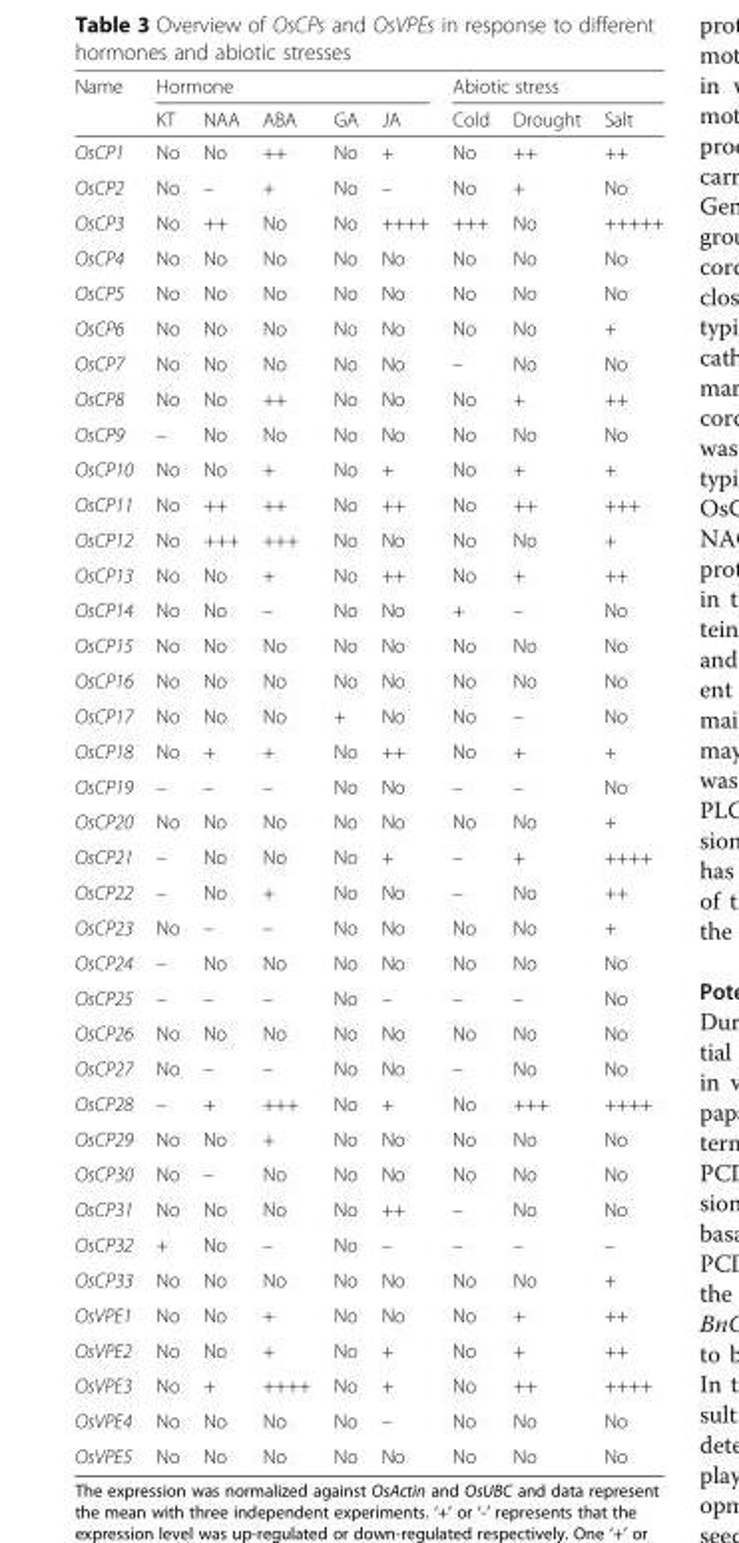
<table><thead><tr><td rowspan="2">Name</td><td colspan="5">Hormone</td><td colspan="3">Abiotic stress</td></tr><tr><td>KT</td><td>NAA</td><td>ABA</td><td>GA</td><td>JA</td><td>Cold</td><td>Drought</td><td>Salt</td></tr></thead><tbody><tr><td>OsCP1</td><td>No</td><td>No</td><td>++</td><td>No</td><td>+</td><td>No</td><td>++</td><td>++</td></tr><tr><td>OsCP2</td><td>No</td><td>–</td><td>+</td><td>No</td><td>–</td><td>No</td><td>+</td><td>No</td></tr><tr><td>OsCP3</td><td>No</td><td>++</td><td>No</td><td>No</td><td>++++</td><td>+++</td><td>No</td><td>+++++</td></tr><tr><td>OsCP4</td><td>No</td><td>No</td><td>No</td><td>No</td><td>No</td><td>No</td><td>No</td><td>No</td></tr><tr><td>OsCP5</td><td>No</td><td>No</td><td>No</td><td>No</td><td>No</td><td>No</td><td>No</td><td>No</td></tr><tr><td>OsCP6</td><td>No</td><td>No</td><td>No</td><td>No</td><td>No</td><td>No</td><td>No</td><td>+</td></tr><tr><td>OsCP7</td><td>No</td><td>No</td><td>No</td><td>No</td><td>No</td><td>–</td><td>No</td><td>No</td></tr><tr><td>OsCP8</td><td>No</td><td>No</td><td>++</td><td>No</td><td>No</td><td>No</td><td>+</td><td>++</td></tr><tr><td>OsCP9</td><td>–</td><td>No</td><td>No</td><td>No</td><td>No</td><td>No</td><td>No</td><td>No</td></tr><tr><td>OsCP10</td><td>No</td><td>No</td><td>+</td><td>No</td><td>+</td><td>No</td><td>+</td><td>+</td></tr><tr><td>OsCP11</td><td>No</td><td>++</td><td>++</td><td>No</td><td>++</td><td>No</td><td>++</td><td>+++</td></tr><tr><td>OsCP12</td><td>No</td><td>+++</td><td>+++</td><td>No</td><td>No</td><td>No</td><td>No</td><td>+</td></tr><tr><td>OsCP13</td><td>No</td><td>No</td><td>+</td><td>No</td><td>++</td><td>No</td><td>+</td><td>++</td></tr><tr><td>OsCP14</td><td>No</td><td>No</td><td>–</td><td>No</td><td>No</td><td>+</td><td>–</td><td>No</td></tr><tr><td>OsCP15</td><td>No</td><td>No</td><td>No</td><td>No</td><td>No</td><td>No</td><td>No</td><td>No</td></tr><tr><td>OsCP16</td><td>No</td><td>No</td><td>No</td><td>No</td><td>No</td><td>No</td><td>No</td><td>No</td></tr><tr><td>OsCP17</td><td>No</td><td>No</td><td>No</td><td>+</td><td>No</td><td>No</td><td>–</td><td>No</td></tr><tr><td>OsCP18</td><td>No</td><td>+</td><td>+</td><td>No</td><td>++</td><td>No</td><td>+</td><td>+</td></tr><tr><td>OsCP19</td><td>–</td><td>–</td><td>–</td><td>No</td><td>No</td><td>–</td><td>–</td><td>No</td></tr><tr><td>OsCP20</td><td>No</td><td>No</td><td>No</td><td>No</td><td>No</td><td>No</td><td>No</td><td>+</td></tr><tr><td>OsCP21</td><td>–</td><td>No</td><td>No</td><td>No</td><td>+</td><td>–</td><td>+</td><td>++++</td></tr><tr><td>OsCP22</td><td>–</td><td>No</td><td>+</td><td>No</td><td>No</td><td>–</td><td>No</td><td>++</td></tr><tr><td>OsCP23</td><td>No</td><td>–</td><td>–</td><td>No</td><td>No</td><td>No</td><td>No</td><td>+</td></tr><tr><td>OsCP24</td><td>–</td><td>No</td><td>No</td><td>No</td><td>No</td><td>No</td><td>No</td><td>No</td></tr><tr><td>OsCP25</td><td>–</td><td>–</td><td>–</td><td>No</td><td>–</td><td>–</td><td>–</td><td>No</td></tr><tr><td>OsCP26</td><td>No</td><td>No</td><td>No</td><td>No</td><td>No</td><td>No</td><td>No</td><td>No</td></tr><tr><td>OsCP27</td><td>No</td><td>–</td><td>–</td><td>No</td><td>No</td><td>–</td><td>No</td><td>No</td></tr><tr><td>OsCP28</td><td>–</td><td>+</td><td>+++</td><td>No</td><td>+</td><td>No</td><td>+++</td><td>++++</td></tr><tr><td>OsCP29</td><td>No</td><td>No</td><td>+</td><td>No</td><td>No</td><td>No</td><td>No</td><td>No</td></tr><tr><td>OsCP30</td><td>No</td><td>–</td><td>No</td><td>No</td><td>No</td><td>No</td><td>No</td><td>No</td></tr><tr><td>OsCP31</td><td>No</td><td>No</td><td>No</td><td>No</td><td>++</td><td>–</td><td>No</td><td>No</td></tr><tr><td>OsCP32</td><td>+</td><td>No</td><td>–</td><td>No</td><td>–</td><td>–</td><td>–</td><td>–</td></tr><tr><td>OsCP33</td><td>No</td><td>No</td><td>No</td><td>No</td><td>No</td><td>No</td><td>No</td><td>+</td></tr><tr><td>OsVPE1</td><td>No</td><td>No</td><td>+</td><td>No</td><td>No</td><td>No</td><td>+</td><td>++</td></tr><tr><td>OsVPE2</td><td>No</td><td>No</td><td>+</td><td>No</td><td>+</td><td>No</td><td>+</td><td>++</td></tr><tr><td>OsVPE3</td><td>No</td><td>+</td><td>++++</td><td>No</td><td>+</td><td>No</td><td>++</td><td>++++</td></tr><tr><td>OsVPE4</td><td>No</td><td>No</td><td>No</td><td>No</td><td>–</td><td>No</td><td>No</td><td>No</td></tr><tr><td>OsVPE5</td><td>No</td><td>No</td><td>No</td><td>No</td><td>No</td><td>No</td><td>No</td><td>No</td></tr></tbody></table>